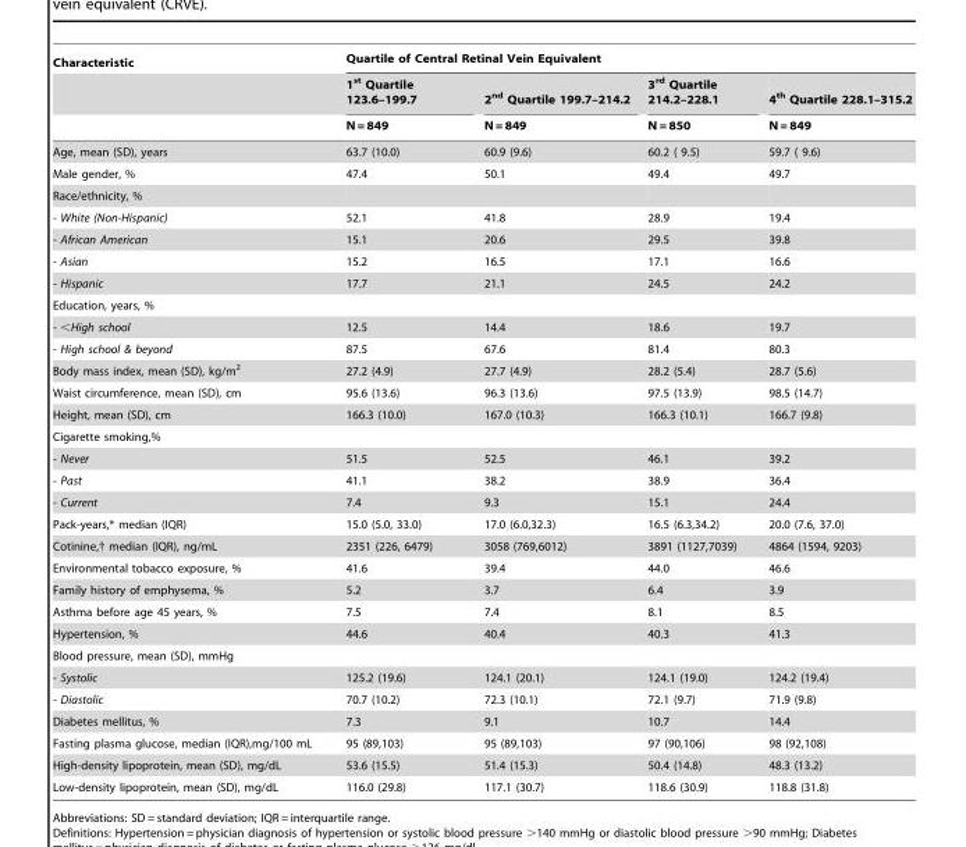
<table><thead><tr><td rowspan="3">Characteristic</td><td colspan="4">Quartile of Central Retinal Vein Equivalent</td></tr><tr><td rowspan="2">1<sup>st</sup> Quartile 123.6–199.7 N = 849</td><td rowspan="2">2<sup>nd</sup> Quartile 199.7–214.2 N = 849</td><td rowspan="2">3<sup>rd</sup> Quartile 214.2–228.1 N = 850</td><td rowspan="2">4<sup>th</sup> Quartile 228.1–315.2 N = 849</td></tr><tr></tr></thead><tbody><tr><td>Age, mean (SD), years</td><td>63.7 (10.0)</td><td>60.9 (9.6)</td><td>60.2 ( 9.5)</td><td>59.7 ( 9.6)</td></tr><tr><td>Male gender, %</td><td>47.4</td><td>50.1</td><td>49.4</td><td>49.7</td></tr><tr><td colspan="5">Race/ethnicity, %</td></tr><tr><td>- White (Non-Hispanic)</td><td>52.1</td><td>41.8</td><td>28.9</td><td>19.4</td></tr><tr><td>- African American</td><td>15.1</td><td>20.6</td><td>29.5</td><td>39.8</td></tr><tr><td>- Asian</td><td>15.2</td><td>16.5</td><td>17.1</td><td>16.6</td></tr><tr><td>- Hispanic</td><td>17.7</td><td>21.1</td><td>24.5</td><td>24.2</td></tr><tr><td colspan="5">Education, years, %</td></tr><tr><td>- &lt;High school</td><td>12.5</td><td>14.4</td><td>18.6</td><td>19.7</td></tr><tr><td>- High school &amp; beyond</td><td>87.5</td><td>67.6</td><td>81.4</td><td>80.3</td></tr><tr><td>Body mass index, mean (SD), kg/m<sup>2</sup></td><td>27.2 (4.9)</td><td>27.7 (4.9)</td><td>28.2 (5.4)</td><td>28.7 (5.6)</td></tr><tr><td>Waist circumference, mean (SD), cm</td><td>95.6 (13.6)</td><td>96.3 (13.6)</td><td>97.5 (13.9)</td><td>98.5 (14.7)</td></tr><tr><td>Height, mean (SD), cm</td><td>166.3 (10.0)</td><td>167.0 (10.3)</td><td>166.3 (10.1)</td><td>166.7 (9.8)</td></tr><tr><td colspan="5">Cigarette smoking,%</td></tr><tr><td>- Never</td><td>51.5</td><td>52.5</td><td>46.1</td><td>39.2</td></tr><tr><td>- Past</td><td>41.1</td><td>38.2</td><td>38.9</td><td>36.4</td></tr><tr><td>- Current</td><td>7.4</td><td>9.3</td><td>15.1</td><td>24.4</td></tr><tr><td>Pack-years,* median (IQR)</td><td>15.0 (5.0, 33.0)</td><td>17.0 (6.0,32.3)</td><td>16.5 (6.3,34.2)</td><td>20.0 (7.6, 37.0)</td></tr><tr><td>Cotinine,† median (IQR), ng/mL</td><td>2351 (226, 6479)</td><td>3058 (769,6012)</td><td>3891 (1127,7039)</td><td>4864 (1594, 9203)</td></tr><tr><td>Environmental tobacco exposure, %</td><td>41.6</td><td>39.4</td><td>44.0</td><td>46.6</td></tr><tr><td>Family history of emphysema, %</td><td>5.2</td><td>3.7</td><td>6.4</td><td>3.9</td></tr><tr><td>Asthma before age 45 years, %</td><td>7.5</td><td>7.4</td><td>8.1</td><td>8.5</td></tr><tr><td>Hypertension, %</td><td>44.6</td><td>40.4</td><td>40.3</td><td>41.3</td></tr><tr><td colspan="5">Blood pressure, mean (SD), mmHg</td></tr><tr><td>- Systolic</td><td>125.2 (19.6)</td><td>124.1 (20.1)</td><td>124.1 (19.0)</td><td>124.2 (19.4)</td></tr><tr><td>- Diastolic</td><td>70.7 (10.2)</td><td>72.3 (10.1)</td><td>72.1 (9.7)</td><td>71.9 (9.8)</td></tr><tr><td>Diabetes mellitus, %</td><td>7.3</td><td>9.1</td><td>10.7</td><td>14.4</td></tr><tr><td>Fasting plasma glucose, median (IQR),mg/100 mL</td><td>95 (89,103)</td><td>95 (89,103)</td><td>97 (90,106)</td><td>98 (92,108)</td></tr><tr><td>High-density lipoprotein, mean (SD), mg/dL</td><td>53.6 (15.5)</td><td>51.4 (15.3)</td><td>50.4 (14.8)</td><td>48.3 (13.2)</td></tr><tr><td>Low-density lipoprotein, mean (SD), mg/dL</td><td>116.0 (29.8)</td><td>117.1 (30.7)</td><td>118.6 (30.9)</td><td>118.8 (31.8)</td></tr></tbody></table>